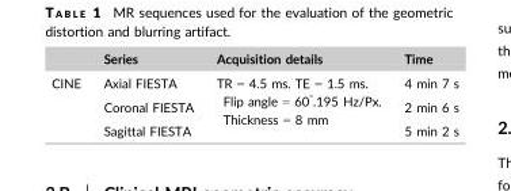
<table><thead><tr><td></td><td>Series</td><td>Acquisition details</td><td>Time</td></tr></thead><tbody><tr><td rowspan="3">CINE</td><td>Axial FIESTA</td><td rowspan="3">TR = 4.5 ms. TE = 1.5 ms. Flip angle = 60<sup>°</sup>.195 Hz/Px. Thickness = 8 mm</td><td>4 min 7 s</td></tr><tr><td>Coronal FIESTA</td><td>2 min 6 s</td></tr><tr><td>Sagittal FIESTA</td><td>5 min 2 s</td></tr></tbody></table>